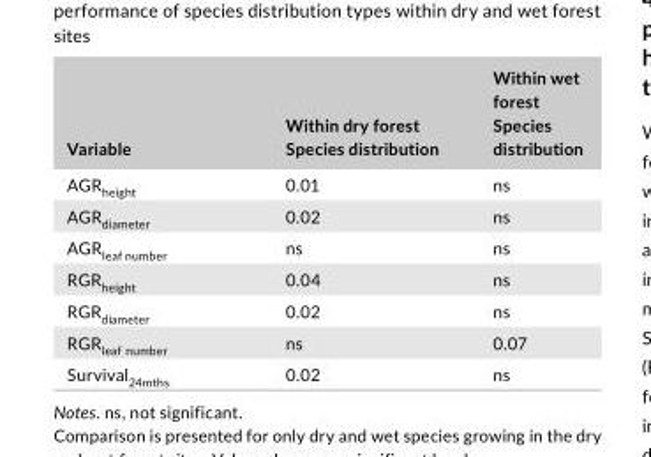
<table><thead><tr><td>Variable</td><td>Within dry forest Species distribution</td><td>Within wet forest Species distribution</td></tr></thead><tbody><tr><td>AGR<sub>height</sub></td><td>0.01</td><td>ns</td></tr><tr><td>AGR<sub>diameter</sub></td><td>0.02</td><td>ns</td></tr><tr><td>AGR<sub>leaf number</sub></td><td>ns</td><td>ns</td></tr><tr><td>RGR<sub>height</sub></td><td>0.04</td><td>ns</td></tr><tr><td>RGR<sub>diameter</sub></td><td>0.02</td><td>ns</td></tr><tr><td>RGR<sub>leaf number</sub></td><td>ns</td><td>0.07</td></tr><tr><td>Survival<sub>24mths</sub></td><td>0.02</td><td>ns</td></tr></tbody></table>